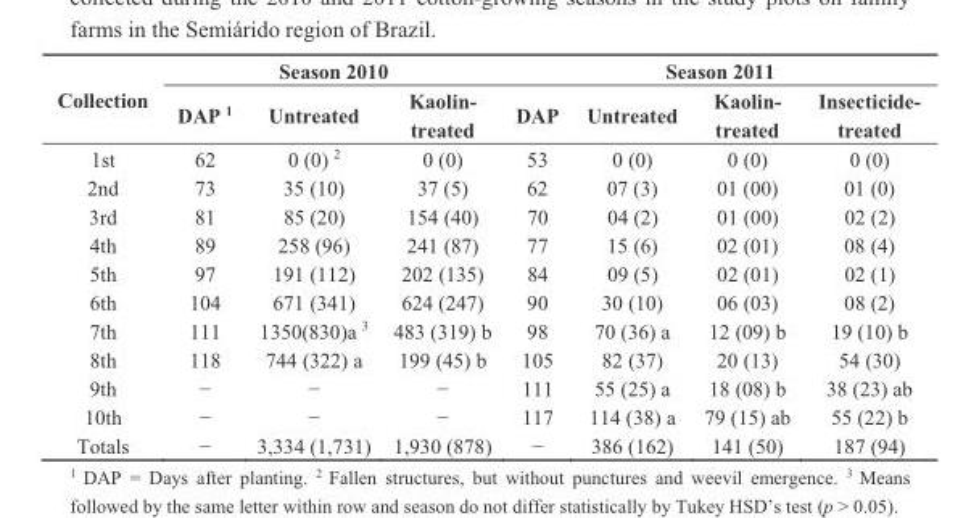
<table><thead><tr><td rowspan="2">Collection</td><td colspan="3">Season 2010</td><td colspan="4">Season 2011</td></tr><tr><td>DAP <sup>1</sup></td><td>Untreated</td><td>Kaolin- treated</td><td>DAP</td><td>Untreated</td><td>Kaolin- treated</td><td>Insecticide- treated</td></tr></thead><tbody><tr><td>1st</td><td>62</td><td>0 (0) <sup>2</sup></td><td>0 (0)</td><td>53</td><td>0 (0)</td><td>0 (0)</td><td>0 (0)</td></tr><tr><td>2nd</td><td>73</td><td>35 (10)</td><td>37 (5)</td><td>62</td><td>07 (3)</td><td>01 (00)</td><td>01 (0)</td></tr><tr><td>3rd</td><td>81</td><td>85 (20)</td><td>154 (40)</td><td>70</td><td>04 (2)</td><td>01 (00)</td><td>02 (2)</td></tr><tr><td>4th</td><td>89</td><td>258 (96)</td><td>241 (87)</td><td>77</td><td>15 (6)</td><td>02 (01)</td><td>08 (4)</td></tr><tr><td>5th</td><td>97</td><td>191 (112)</td><td>202 (135)</td><td>84</td><td>09 (5)</td><td>02 (01)</td><td>02 (1)</td></tr><tr><td>6th</td><td>104</td><td>671 (341)</td><td>624 (247)</td><td>90</td><td>30 (10)</td><td>06 (03)</td><td>08 (2)</td></tr><tr><td>7th</td><td>111</td><td>1350(830)a <sup>3</sup></td><td>483 (319) b</td><td>98</td><td>70 (36) a</td><td>12 (09) b</td><td>19 (10) b</td></tr><tr><td>8th</td><td>118</td><td>744 (322) a</td><td>199 (45) b</td><td>105</td><td>82 (37)</td><td>20 (13)</td><td>54 (30)</td></tr><tr><td>9th</td><td>−</td><td>−</td><td>−</td><td>111</td><td>55 (25) a</td><td>18 (08) b</td><td>38 (23) ab</td></tr><tr><td>10th</td><td>−</td><td>−</td><td>−</td><td>117</td><td>114 (38) a</td><td>79 (15) ab</td><td>55 (22) b</td></tr><tr><td>Totals</td><td>−</td><td>3,334 (1,731)</td><td>1,930 (878)</td><td>−</td><td>386 (162)</td><td>141 (50)</td><td>187 (94)</td></tr></tbody></table>